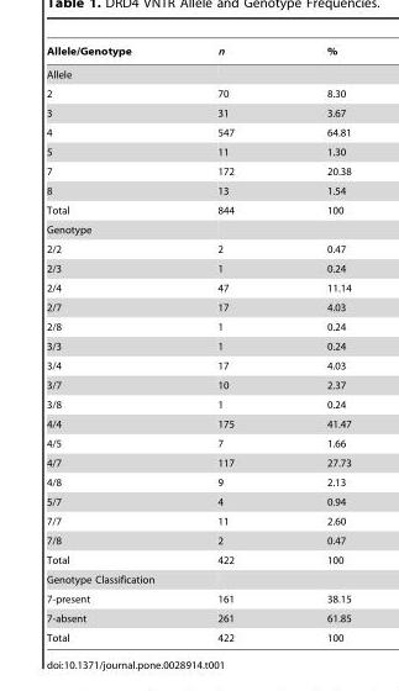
<table><thead><tr><td>Allele/Genotype</td><td>n</td><td>%</td></tr></thead><tbody><tr><td colspan="3">Allele</td></tr><tr><td>2</td><td>70</td><td>8.30</td></tr><tr><td>3</td><td>31</td><td>3.67</td></tr><tr><td>4</td><td>547</td><td>64.81</td></tr><tr><td>5</td><td>11</td><td>1.30</td></tr><tr><td>7</td><td>172</td><td>20.38</td></tr><tr><td>8</td><td>13</td><td>1.54</td></tr><tr><td>Total</td><td>844</td><td>100</td></tr><tr><td colspan="3">Genotype</td></tr><tr><td>2/2</td><td>2</td><td>0.47</td></tr><tr><td>2/3</td><td>1</td><td>0.24</td></tr><tr><td>2/4</td><td>47</td><td>11.14</td></tr><tr><td>2/7</td><td>17</td><td>4.03</td></tr><tr><td>2/8</td><td>1</td><td>0.24</td></tr><tr><td>3/3</td><td>1</td><td>0.24</td></tr><tr><td>3/4</td><td>17</td><td>4.03</td></tr><tr><td>3/7</td><td>10</td><td>2.37</td></tr><tr><td>3/8</td><td>1</td><td>0.24</td></tr><tr><td>4/4</td><td>175</td><td>41.47</td></tr><tr><td>4/5</td><td>7</td><td>1.66</td></tr><tr><td>4/7</td><td>117</td><td>27.73</td></tr><tr><td>4/8</td><td>9</td><td>2.13</td></tr><tr><td>5/7</td><td>4</td><td>0.94</td></tr><tr><td>7/7</td><td>11</td><td>2.60</td></tr><tr><td>7/8</td><td>2</td><td>0.47</td></tr><tr><td>Total</td><td>422</td><td>100</td></tr><tr><td colspan="3">Genotype Classification</td></tr><tr><td>7-present</td><td>161</td><td>38.15</td></tr><tr><td>7-absent</td><td>261</td><td>61.85</td></tr><tr><td>Total</td><td>422</td><td>100</td></tr></tbody></table>